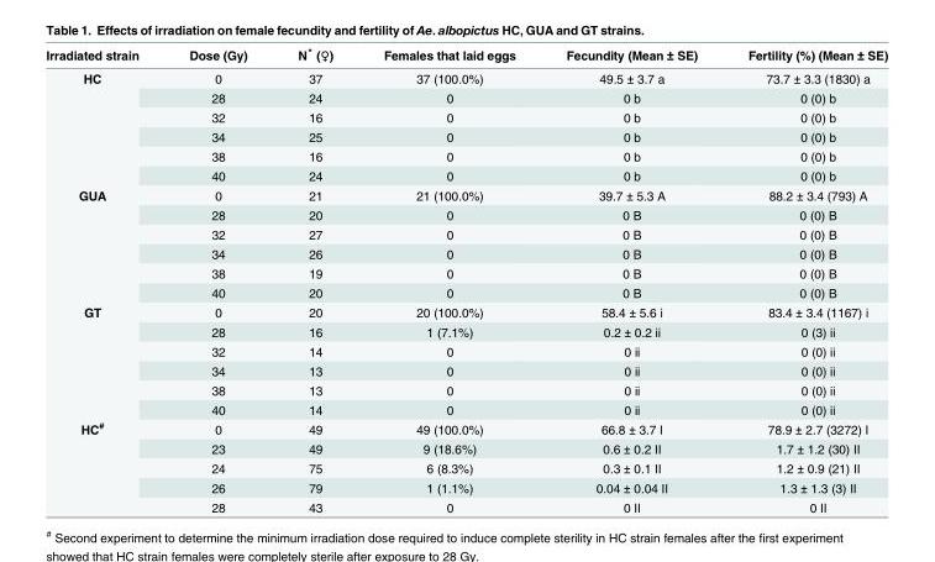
<table><thead><tr><td>Irradiated strain</td><td>Dose (Gy)</td><td>N* (♀)</td><td>Females that laid eggs</td><td>Fecundity (Mean ± SE)</td><td>Fertility (%) (Mean ± SE)</td></tr></thead><tbody><tr><td rowspan="6">HC</td><td>0</td><td>37</td><td>37 (100.0%)</td><td>49.5 ± 3.7 a</td><td>73.7 ± 3.3 (1830) a</td></tr><tr><td>28</td><td>24</td><td>0</td><td>0 b</td><td>0 (0) b</td></tr><tr><td>32</td><td>16</td><td>0</td><td>0 b</td><td>0 (0) b</td></tr><tr><td>34</td><td>25</td><td>0</td><td>0 b</td><td>0 (0) b</td></tr><tr><td>38</td><td>16</td><td>0</td><td>0 b</td><td>0 (0) b</td></tr><tr><td>40</td><td>24</td><td>0</td><td>0 b</td><td>0 (0) b</td></tr><tr><td rowspan="6">GUA</td><td>0</td><td>21</td><td>21 (100.0%)</td><td>39.7 ± 5.3 A</td><td>88.2 ± 3.4 (793) A</td></tr><tr><td>28</td><td>20</td><td>0</td><td>0 B</td><td>0 (0) B</td></tr><tr><td>32</td><td>27</td><td>0</td><td>0 B</td><td>0 (0) B</td></tr><tr><td>34</td><td>26</td><td>0</td><td>0 B</td><td>0 (0) B</td></tr><tr><td>38</td><td>19</td><td>0</td><td>0 B</td><td>0 (0) B</td></tr><tr><td>40</td><td>20</td><td>0</td><td>0 B</td><td>0 (0) B</td></tr><tr><td rowspan="6">GT</td><td>0</td><td>20</td><td>20 (100.0%)</td><td>58.4 ± 5.6 i</td><td>83.4 ± 3.4 (1167) i</td></tr><tr><td>28</td><td>16</td><td>1 (7.1%)</td><td>0.2 ± 0.2 ii</td><td>0 (3) ii</td></tr><tr><td>32</td><td>14</td><td>0</td><td>0 ii</td><td>0 (0) ii</td></tr><tr><td>34</td><td>13</td><td>0</td><td>0 ii</td><td>0 (0) ii</td></tr><tr><td>38</td><td>13</td><td>0</td><td>0 ii</td><td>0 (0) ii</td></tr><tr><td>40</td><td>14</td><td>0</td><td>0 ii</td><td>0 (0) ii</td></tr><tr><td rowspan="5">HC<sup>#</sup></td><td>0</td><td>49</td><td>49 (100.0%)</td><td>66.8 ± 3.7 I</td><td>78.9 ± 2.7 (3272) I</td></tr><tr><td>23</td><td>49</td><td>9 (18.6%)</td><td>0.6 ± 0.2 II</td><td>1.7 ± 1.2 (30) II</td></tr><tr><td>24</td><td>75</td><td>6 (8.3%)</td><td>0.3 ± 0.1 II</td><td>1.2 ± 0.9 (21) II</td></tr><tr><td>26</td><td>79</td><td>1 (1.1%)</td><td>0.04 ± 0.04 II</td><td>1.3 ± 1.3 (3) II</td></tr><tr><td>28</td><td>43</td><td>0</td><td>0 II</td><td>0 II</td></tr></tbody></table>